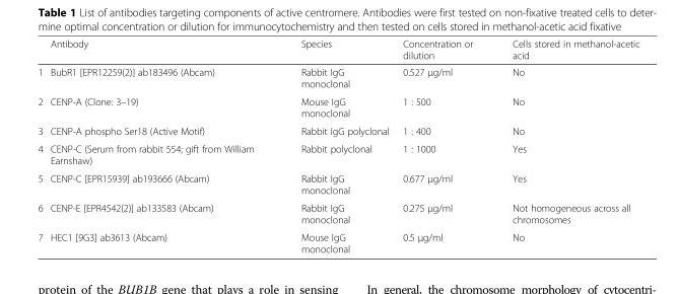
<table><thead><tr><td></td><td>Antibody</td><td>Species</td><td>Concentration or dilution</td><td>Cells stored in methanol-acetic acid</td></tr></thead><tbody><tr><td>1</td><td>BubR1 [EPR12259(2)] ab183496 (Abcam)</td><td>Rabbit IgG monoclonal</td><td>0.527 μg/ml</td><td>No</td></tr><tr><td>2</td><td>CENP-A (Clone: 3–19)</td><td>Mouse IgG monoclonal</td><td>1 : 500</td><td>No</td></tr><tr><td>3</td><td>CENP-A phospho Ser18 (Active Motif)</td><td>Rabbit IgG polyclonal</td><td>1 : 400</td><td>No</td></tr><tr><td>4</td><td>CENP-C (Serum from rabbit 554; gift from William Earnshaw)</td><td>Rabbit polyclonal</td><td>1 : 1000</td><td>Yes</td></tr><tr><td>5</td><td>CENP-C [EPR15939] ab193666 (Abcam)</td><td>Rabbit IgG monoclonal</td><td>0.677 μg/ml</td><td>Yes</td></tr><tr><td>6</td><td>CENP-E [EPR4542(2)] ab133583 (Abcam)</td><td>Rabbit IgG monoclonal</td><td>0.275 μg/ml</td><td>Not homogeneous across all chromosomes</td></tr><tr><td>7</td><td>HEC1 [9G3] ab3613 (Abcam)</td><td>Mouse IgG monoclonal</td><td>0.5 μg/ml</td><td>No</td></tr></tbody></table>